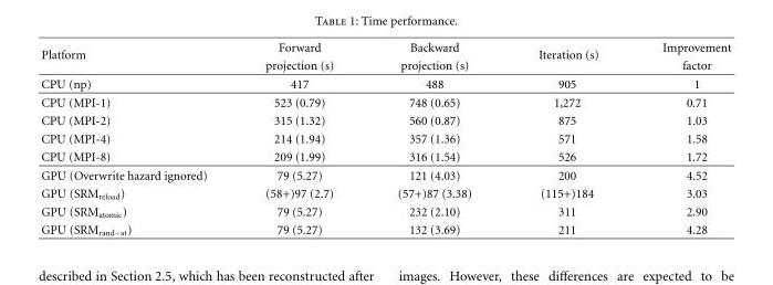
<table><thead><tr><td rowspan="2">Platform</td><td rowspan="2">Forward projection (s)</td><td rowspan="2">Backward projection (s)</td><td rowspan="2">Iteration (s)</td><td rowspan="2">Improvement factor</td></tr><tr></tr></thead><tbody><tr><td>CPU (np)</td><td>417</td><td>488</td><td>905</td><td>1</td></tr><tr><td>CPU (MPI-1)</td><td>523 (0.79)</td><td>748 (0.65)</td><td>1,272</td><td>0.71</td></tr><tr><td>CPU (MPI-2)</td><td>315 (1.32)</td><td>560 (0.87)</td><td>875</td><td>1.03</td></tr><tr><td>CPU (MPI-4)</td><td>214 (1.94)</td><td>357 (1.36)</td><td>571</td><td>1.58</td></tr><tr><td>CPU (MPI-8)</td><td>209 (1.99)</td><td>316 (1.54)</td><td>526</td><td>1.72</td></tr><tr><td>GPU (Overwrite hazard ignored)</td><td>79 (5.27)</td><td>121 (4.03)</td><td>200</td><td>4.52</td></tr><tr><td>GPU (SRM<sub>reload</sub>)</td><td>(58+)97 (2.7)</td><td>(57+)87 (3.38)</td><td>(115+)184</td><td>3.03</td></tr><tr><td>GPU (SRM<sub>atomic</sub>)</td><td>79 (5.27)</td><td>232 (2.10)</td><td>311</td><td>2.90</td></tr><tr><td>GPU (SRM<sub>rand−at</sub>)</td><td>79 (5.27)</td><td>132 (3.69)</td><td>211</td><td>4.28</td></tr></tbody></table>